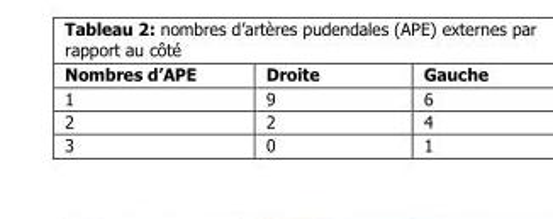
<table><thead><tr><td>Nombres d’APE</td><td>Droite</td><td>Gauche</td></tr></thead><tbody><tr><td>1</td><td>9</td><td>6</td></tr><tr><td>2</td><td>2</td><td>4</td></tr><tr><td>3</td><td>0</td><td>1</td></tr></tbody></table>